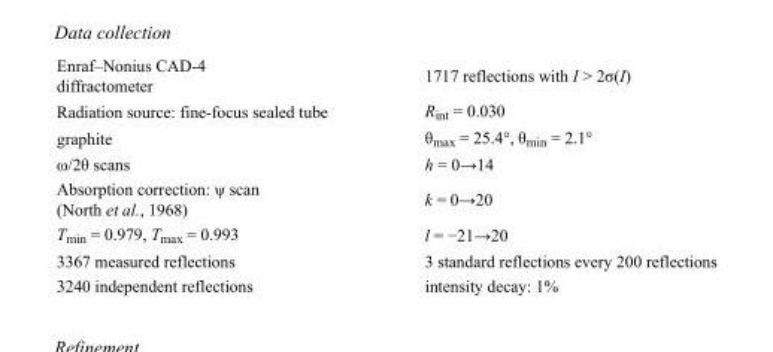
<table><tbody><tr><td>Enraf–Nonius CAD-4 diffractometer</td><td>1717 reflections with I &gt; 2σ(I)</td></tr><tr><td>Radiation source: fine-focus sealed tube</td><td>R<sub>int</sub> = 0.030</td></tr><tr><td>graphite</td><td>θ<sub>max</sub> = 25.4°, θ<sub>min</sub> = 2.1°</td></tr><tr><td>ω/2θ scans</td><td>h = 0→14</td></tr><tr><td>Absorption correction: ψ scan (North et al., 1968)</td><td>k = 0→20</td></tr><tr><td>T<sub>min</sub> = 0.979, T<sub>max</sub> = 0.993</td><td>l = −21→20</td></tr><tr><td>3367 measured reflections</td><td>3 standard reflections every 200 reflections</td></tr><tr><td>3240 independent reflections</td><td>intensity decay: 1%</td></tr></tbody></table>